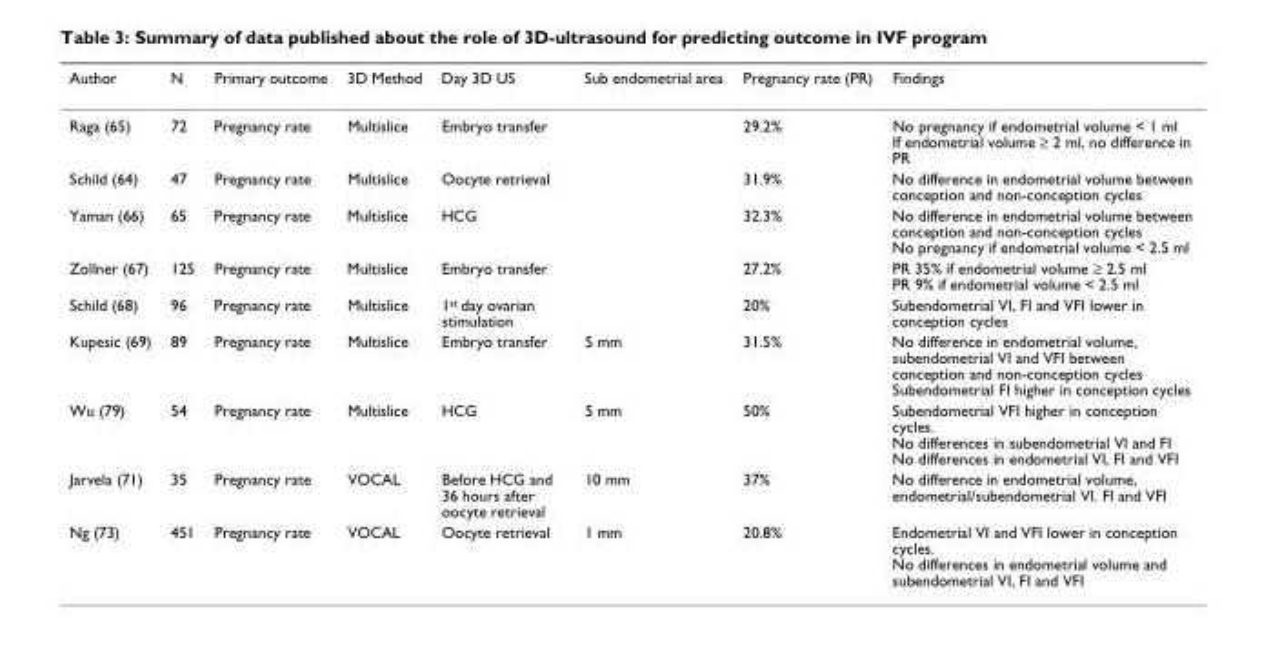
<table><thead><tr><td>Author</td><td>N</td><td>Primary outcome</td><td>3D Method</td><td>Day 3D US</td><td>Sub endometrial area</td><td>Pregnancy rate (PR)</td><td>Findings</td></tr></thead><tbody><tr><td>Raga (65)</td><td>72</td><td>Pregnancy rate</td><td>Multislice</td><td>Embryo transfer</td><td></td><td>29.2%</td><td>No pregnancy if endometrial volume &lt; 1 ml If endometrial volume ≥ 2 ml, no difference in PR</td></tr><tr><td>Schild (64)</td><td>47</td><td>Pregnancy rate</td><td>Multislice</td><td>Oocyte retrieval</td><td></td><td>31.9%</td><td>No difference in endometrial volume between conception and non-conception cycles</td></tr><tr><td>Yaman (66)</td><td>65</td><td>Pregnancy rate</td><td>Multislice</td><td>HCG</td><td></td><td>32.3%</td><td>No difference in endometrial volume between conception and non-conception cycles No pregnancy if endometrial volume &lt; 2.5 ml</td></tr><tr><td>Zollner (67)</td><td>125</td><td>Pregnancy rate</td><td>Multislice</td><td>Embryo transfer</td><td></td><td>27.2%</td><td>PR 35% if endometrial volume ≥ 2.5 ml PR 9% if endometrial volume &lt; 2.5 ml</td></tr><tr><td>Schild (68)</td><td>96</td><td>Pregnancy rate</td><td>Multislice</td><td>1<sup>st</sup> day ovarian stimulation</td><td></td><td>20%</td><td>Subendometrial VI, FI and VFI lower in conception cycles</td></tr><tr><td>Kupesic (69)</td><td>89</td><td>Pregnancy rate</td><td>Multislice</td><td>Embryo transfer</td><td>5 mm</td><td>31.5%</td><td>No difference in endometrial volume, subendometrial VI and VFI between conception and non-conception cycles Subendometrial FI higher in conception cycles</td></tr><tr><td>Wu (79)</td><td>54</td><td>Pregnancy rate</td><td>Multislice</td><td>HCG</td><td>5 mm</td><td>50%</td><td>Subendometrial VFI higher in conception cycles. No differences in subendometrial VI and FI No differences in endometrial VI, FI and VFI</td></tr><tr><td>Jarvela (71)</td><td>35</td><td>Pregnancy rate</td><td>VOCAL</td><td>Before HCG and 36 hours after oocyte retrieval</td><td>10 mm</td><td>37%</td><td>No difference in endometrial volume, endometrial/subendometrial VI. FI and VFI</td></tr><tr><td>Ng (73)</td><td>451</td><td>Pregnancy rate</td><td>VOCAL</td><td>Oocyte retrieval</td><td>1 mm</td><td>20.8%</td><td>Endometrial VI and VFI lower in conception cycles. No differences in endometrial volume and subendometrial VI, FI and VFI</td></tr></tbody></table>